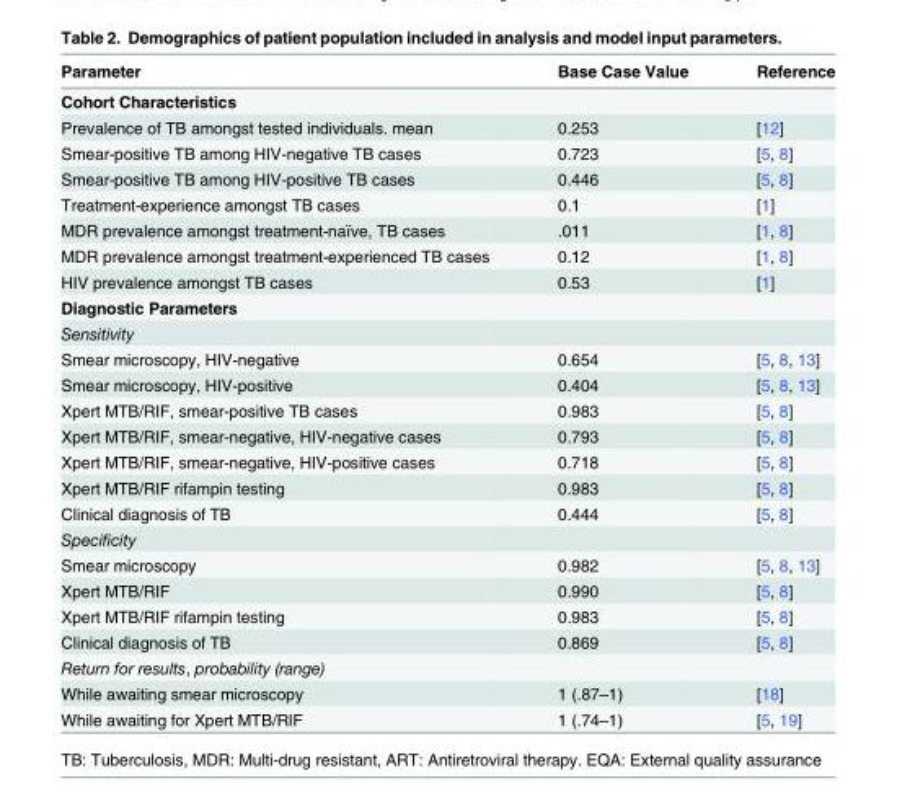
<table><thead><tr><td>Parameter</td><td>Base Case Value</td><td>Reference</td></tr></thead><tbody><tr><td colspan="3">Cohort Characteristics</td></tr><tr><td>Prevalence of TB amongst tested individuals. mean</td><td>0.253</td><td>[12]</td></tr><tr><td>Smear-positive TB among HIV-negative TB cases</td><td>0.723</td><td>[5, 8]</td></tr><tr><td>Smear-positive TB among HIV-positive TB cases</td><td>0.446</td><td>[5, 8]</td></tr><tr><td>Treatment-experience amongst TB cases</td><td>0.1</td><td>[1]</td></tr><tr><td>MDR prevalence amongst treatment-naïve, TB cases</td><td>.011</td><td>[1, 8]</td></tr><tr><td>MDR prevalence amongst treatment-experienced TB cases</td><td>0.12</td><td>[1, 8]</td></tr><tr><td>HIV prevalence amongst TB cases</td><td>0.53</td><td>[1]</td></tr><tr><td colspan="3">Diagnostic Parameters</td></tr><tr><td colspan="3">Sensitivity</td></tr><tr><td>Smear microscopy, HIV-negative</td><td>0.654</td><td>[5, 8, 13]</td></tr><tr><td>Smear microscopy, HIV-positive</td><td>0.404</td><td>[5, 8, 13]</td></tr><tr><td>Xpert MTB/RIF, smear-positive TB cases</td><td>0.983</td><td>[5, 8]</td></tr><tr><td>Xpert MTB/RIF, smear-negative, HIV-negative cases</td><td>0.793</td><td>[5, 8]</td></tr><tr><td>Xpert MTB/RIF, smear-negative, HIV-positive cases</td><td>0.718</td><td>[5, 8]</td></tr><tr><td>Xpert MTB/RIF rifampin testing</td><td>0.983</td><td>[5, 8]</td></tr><tr><td>Clinical diagnosis of TB</td><td>0.444</td><td>[5, 8]</td></tr><tr><td colspan="3">Specificity</td></tr><tr><td>Smear microscopy</td><td>0.982</td><td>[5, 8, 13]</td></tr><tr><td>Xpert MTB/RIF</td><td>0.990</td><td>[5, 8]</td></tr><tr><td>Xpert MTB/RIF rifampin testing</td><td>0.983</td><td>[5, 8]</td></tr><tr><td>Clinical diagnosis of TB</td><td>0.869</td><td>[5, 8]</td></tr><tr><td colspan="3">Return for results, probability (range)</td></tr><tr><td>While awaiting smear microscopy</td><td>1 (.87–1)</td><td>[18]</td></tr><tr><td>While awaiting for Xpert MTB/RIF</td><td>1 (.74–1)</td><td>[5, 19]</td></tr></tbody></table>